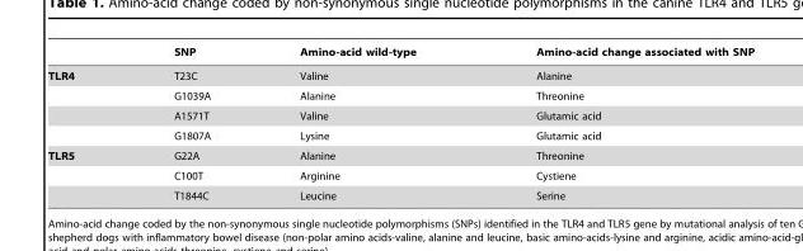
<table><thead><tr><td></td><td>SNP</td><td>Amino-acid wild-type</td><td>Amino-acid change associated with SNP</td></tr></thead><tbody><tr><td rowspan="4">TLR4</td><td>T23C</td><td>Valine</td><td>Alanine</td></tr><tr><td>G1039A</td><td>Alanine</td><td>Threonine</td></tr><tr><td>A1571T</td><td>Valine</td><td>Glutamic acid</td></tr><tr><td>G1807A</td><td>Lysine</td><td>Glutamic acid</td></tr><tr><td rowspan="3">TLR5</td><td>G22A</td><td>Alanine</td><td>Threonine</td></tr><tr><td>C100T</td><td>Arginine</td><td>Cystiene</td></tr><tr><td>T1844C</td><td>Leucine</td><td>Serine</td></tr></tbody></table>